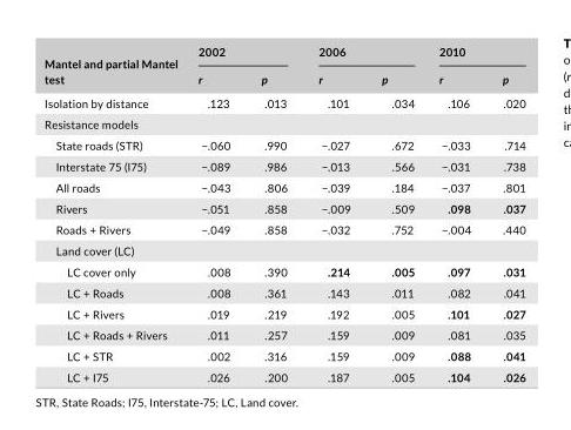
<table><thead><tr><td rowspan="2">Mantel and partial Mantel test</td><td colspan="2">2002</td><td colspan="2">2006</td><td colspan="2">2010</td></tr><tr><td>r</td><td>p</td><td>r</td><td>p</td><td>r</td><td>p</td></tr></thead><tbody><tr><td>Isolation by distance</td><td>.123</td><td>.013</td><td>.101</td><td>.034</td><td>.106</td><td>.020</td></tr><tr><td colspan="7">Resistance models</td></tr><tr><td>State roads (STR)</td><td>−.060</td><td>.990</td><td>−.027</td><td>.672</td><td>−.033</td><td>.714</td></tr><tr><td>Interstate 75 (I75)</td><td>−.089</td><td>.986</td><td>−.013</td><td>.566</td><td>−.031</td><td>.738</td></tr><tr><td>All roads</td><td>−.043</td><td>.806</td><td>−.039</td><td>.184</td><td>−.037</td><td>.801</td></tr><tr><td>Rivers</td><td>−.051</td><td>.858</td><td>−.009</td><td>.509</td><td>.098</td><td>.037</td></tr><tr><td>Roads + Rivers</td><td>−.049</td><td>.858</td><td>−.032</td><td>.752</td><td>−.004</td><td>.440</td></tr><tr><td colspan="7">Land cover (LC)</td></tr><tr><td>LC cover only</td><td>.008</td><td>.390</td><td>.214</td><td>.005</td><td>.097</td><td>.031</td></tr><tr><td>LC + Roads</td><td>.008</td><td>.361</td><td>.143</td><td>.011</td><td>.082</td><td>.041</td></tr><tr><td>LC + Rivers</td><td>.019</td><td>.219</td><td>.192</td><td>.005</td><td>.101</td><td>.027</td></tr><tr><td>LC + Roads + Rivers</td><td>.011</td><td>.257</td><td>.159</td><td>.009</td><td>.081</td><td>.035</td></tr><tr><td>LC + STR</td><td>.002</td><td>.316</td><td>.159</td><td>.009</td><td>.088</td><td>.041</td></tr><tr><td>LC + I75</td><td>.026</td><td>.200</td><td>.187</td><td>.005</td><td>.104</td><td>.026</td></tr></tbody></table>